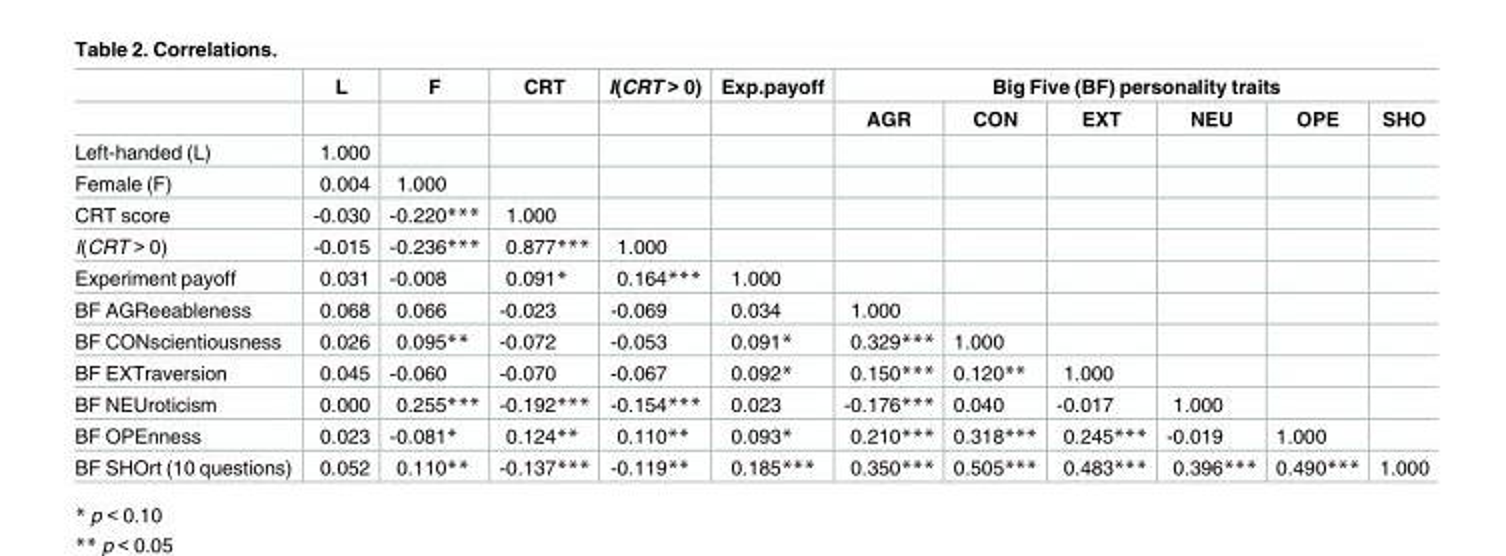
<table><thead><tr><td rowspan="2"></td><td rowspan="2">L</td><td rowspan="2">F</td><td rowspan="2">CRT</td><td rowspan="2">I(CRT &gt; 0)</td><td rowspan="2">Exp.payoff</td><td colspan="6">Big Five (BF) personality traits</td></tr><tr><td>AGR</td><td>CON</td><td>EXT</td><td>NEU</td><td>OPE</td><td>SHO</td></tr></thead><tbody><tr><td>Left-handed (L)</td><td>1.000</td><td></td><td></td><td></td><td></td><td></td><td></td><td></td><td></td><td></td><td></td></tr><tr><td>Female (F)</td><td>0.004</td><td>1.000</td><td></td><td></td><td></td><td></td><td></td><td></td><td></td><td></td><td></td></tr><tr><td>CRT score</td><td>-0.030</td><td>-0.220***</td><td>1.000</td><td></td><td></td><td></td><td></td><td></td><td></td><td></td><td></td></tr><tr><td>I(CRT &gt; 0)</td><td>-0.015</td><td>-0.236***</td><td>0.877***</td><td>1.000</td><td></td><td></td><td></td><td></td><td></td><td></td><td></td></tr><tr><td>Experiment payoff</td><td>0.031</td><td>-0.008</td><td>0.091*</td><td>0.164***</td><td>1.000</td><td></td><td></td><td></td><td></td><td></td><td></td></tr><tr><td>BF AGReeableness</td><td>0.068</td><td>0.066</td><td>-0.023</td><td>-0.069</td><td>0.034</td><td>1.000</td><td></td><td></td><td></td><td></td><td></td></tr><tr><td>BF CONscientiousness</td><td>0.026</td><td>0.095**</td><td>-0.072</td><td>-0.053</td><td>0.091*</td><td>0.329***</td><td>1.000</td><td></td><td></td><td></td><td></td></tr><tr><td>BF EXTraversion</td><td>0.045</td><td>-0.060</td><td>-0.070</td><td>-0.067</td><td>0.092*</td><td>0.150***</td><td>0.120**</td><td>1.000</td><td></td><td></td><td></td></tr><tr><td>BF NEUroticism</td><td>0.000</td><td>0.255***</td><td>-0.192***</td><td>-0.154***</td><td>0.023</td><td>-0.176***</td><td>0.040</td><td>-0.017</td><td>1.000</td><td></td><td></td></tr><tr><td>BF OPEnness</td><td>0.023</td><td>-0.081*</td><td>0.124**</td><td>0.110**</td><td>0.093*</td><td>0.210***</td><td>0.318***</td><td>0.245***</td><td>-0.019</td><td>1.000</td><td></td></tr><tr><td>BF SHOrt (10 questions)</td><td>0.052</td><td>0.110**</td><td>-0.137***</td><td>-0.119**</td><td>0.185***</td><td>0.350***</td><td>0.505***</td><td>0.483***</td><td>0.396***</td><td>0.490***</td><td>1.000</td></tr></tbody></table>